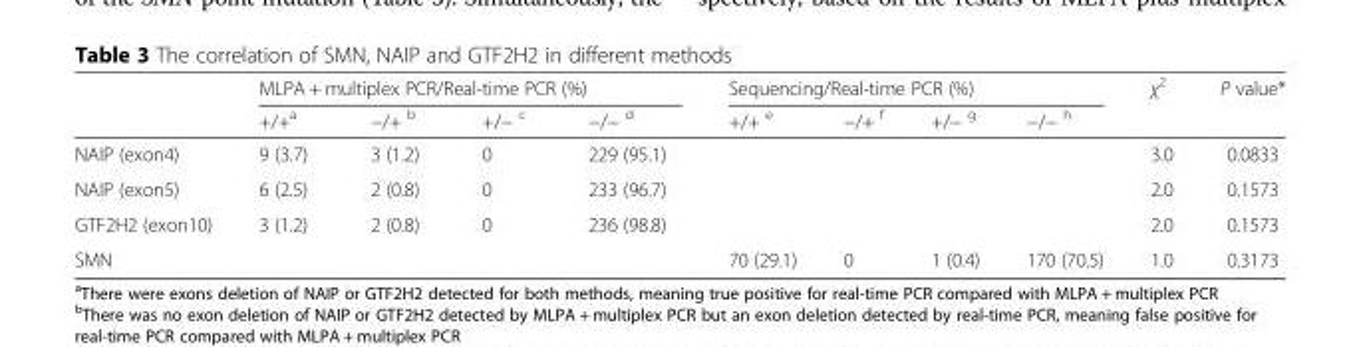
<table><thead><tr><td rowspan="2"></td><td colspan="4">MLPA + multiplex PCR/Real-time PCR (%)</td><td colspan="4">Sequencing/Real-time PCR (%)</td><td rowspan="2">χ<sup>2</sup></td><td rowspan="2">P value*</td></tr><tr><td>+/+<sup>a</sup></td><td>−/+ <sup>b</sup></td><td>+/− <sup>c</sup></td><td>−/− <sup>d</sup></td><td>+/+ <sup>e</sup></td><td>−/+ <sup>f</sup></td><td>+/− <sup>g</sup></td><td>−/− <sup>h</sup></td></tr></thead><tbody><tr><td>NAIP (exon4)</td><td>9 (3.7)</td><td>3 (1.2)</td><td>0</td><td>229 (95.1)</td><td></td><td></td><td></td><td></td><td>3.0</td><td>0.0833</td></tr><tr><td>NAIP (exon5)</td><td>6 (2.5)</td><td>2 (0.8)</td><td>0</td><td>233 (96.7)</td><td></td><td></td><td></td><td></td><td>2.0</td><td>0.1573</td></tr><tr><td>GTF2H2 (exon10)</td><td>3 (1.2)</td><td>2 (0.8)</td><td>0</td><td>236 (98.8)</td><td></td><td></td><td></td><td></td><td>2.0</td><td>0.1573</td></tr><tr><td>SMN</td><td></td><td></td><td></td><td></td><td>70 (29.1)</td><td>0</td><td>1 (0.4)</td><td>170 (70.5)</td><td>1.0</td><td>0.3173</td></tr></tbody></table>